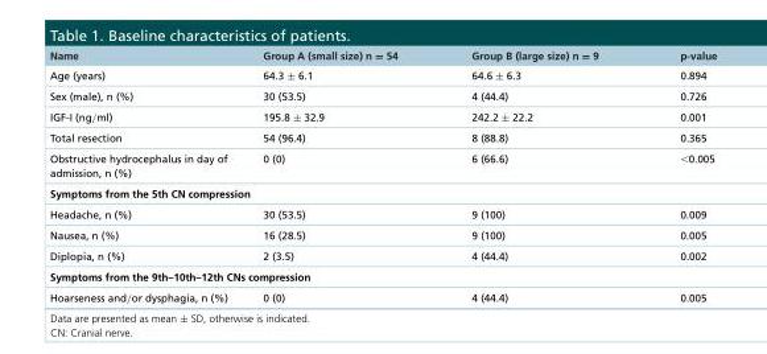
<table><thead><tr><td>Name</td><td>Group A (small size) n = 54</td><td>Group B (large size) n = 9</td><td>p-value</td></tr></thead><tbody><tr><td>Age (years)</td><td>64.3 ± 6.1</td><td>64.6 ± 6.3</td><td>0.894</td></tr><tr><td>Sex (male), n (%)</td><td>30 (53.5)</td><td>4 (44.4)</td><td>0.726</td></tr><tr><td>IGF-I (ng/ml)</td><td>195.8 ± 32.9</td><td>242.2 ± 22.2</td><td>0.001</td></tr><tr><td>Total resection</td><td>54 (96.4)</td><td>8 (88.8)</td><td>0.365</td></tr><tr><td>Obstructive hydrocephalus in day of admission, n (%)</td><td>0 (0)</td><td>6 (66.6)</td><td>&lt;0.005</td></tr><tr><td colspan="4">Symptoms from the 5th CN compression</td></tr><tr><td>Headache, n (%)</td><td>30 (53.5)</td><td>9 (100)</td><td>0.009</td></tr><tr><td>Nausea, n (%)</td><td>16 (28.5)</td><td>9 (100)</td><td>0.005</td></tr><tr><td>Diplopia, n (%)</td><td>2 (3.5)</td><td>4 (44.4)</td><td>0.002</td></tr><tr><td colspan="4">Symptoms from the 9th–10th–12th CNs compression</td></tr><tr><td>Hoarseness and/or dysphagia, n (%)</td><td>0 (0)</td><td>4 (44.4)</td><td>0.005</td></tr></tbody></table>